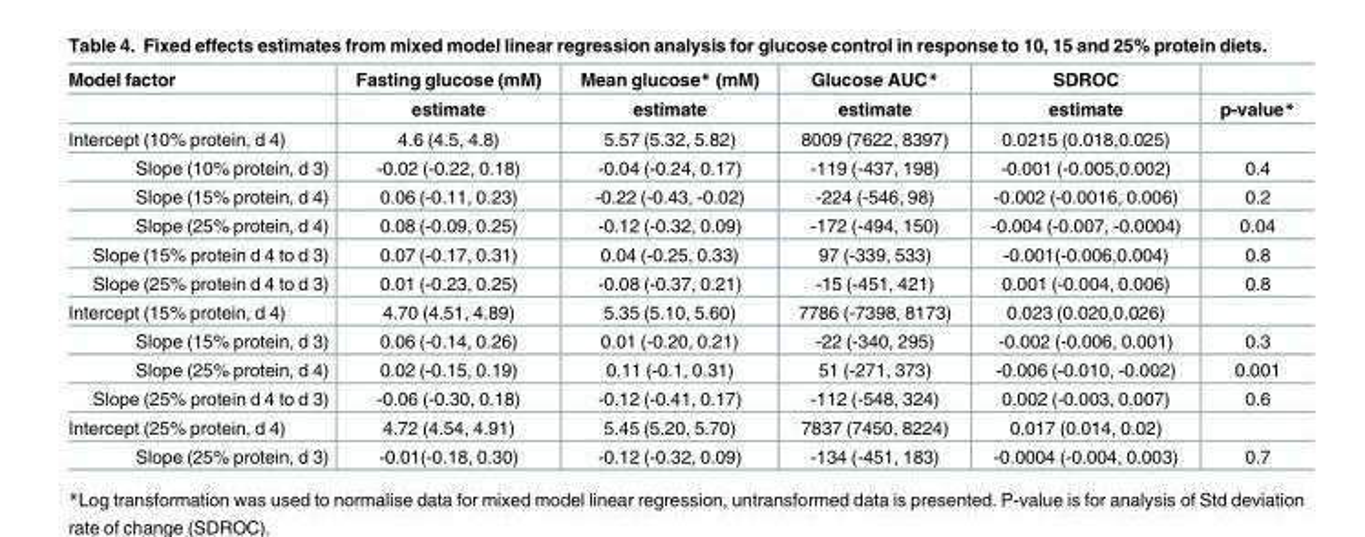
<table><thead><tr><td rowspan="2">Model factor</td><td rowspan="2">Fasting glucose (mM) estimate</td><td rowspan="2">Mean glucose* (mM) estimate</td><td rowspan="2">Glucose AUC* estimate</td><td rowspan="2">SDROC estimate</td><td rowspan="2">p-value*</td></tr><tr></tr></thead><tbody><tr><td>Intercept (10% protein, d 4)</td><td>4.6 (4.5, 4.8)</td><td>5.57 (5.32, 5.82)</td><td>8009 (7622, 8397)</td><td>0.0215 (0.018,0.025)</td><td></td></tr><tr><td>Slope (10% protein, d 3)</td><td>-0.02 (-0.22, 0.18)</td><td>-0.04 (-0.24, 0.17)</td><td>-119 (-437, 198)</td><td>-0.001 (-0.005,0.002)</td><td>0.4</td></tr><tr><td>Slope (15% protein, d 4)</td><td>0.06 (-0.11, 0.23)</td><td>-0.22 (-0.43, -0.02)</td><td>-224 (-546, 98)</td><td>-0.002 (-0.0016, 0.006)</td><td>0.2</td></tr><tr><td>Slope (25% protein, d 4)</td><td>0.08 (-0.09, 0.25)</td><td>-0.12 (-0.32, 0.09)</td><td>-172 (-494, 150)</td><td>-0.004 (-0.007, -0.0004)</td><td>0.04</td></tr><tr><td>Slope (15% protein d 4 to d 3)</td><td>0.07 (-0.17, 0.31)</td><td>0.04 (-0.25, 0.33)</td><td>97 (-339, 533)</td><td>-0.001(-0.006,0.004)</td><td>0.8</td></tr><tr><td>Slope (25% protein d 4 to d 3)</td><td>0.01 (-0.23, 0.25)</td><td>-0.08 (-0.37, 0.21)</td><td>-15 (-451, 421)</td><td>0.001 (-0.004, 0.006)</td><td>0.8</td></tr><tr><td>Intercept (15% protein, d 4)</td><td>4.70 (4.51, 4.89)</td><td>5.35 (5.10, 5.60)</td><td>7786 (-7398, 8173)</td><td>0.023 (0.020,0.026)</td><td></td></tr><tr><td>Slope (15% protein, d 3)</td><td>0.06 (-0.14, 0.26)</td><td>0.01 (-0.20, 0.21)</td><td>-22 (-340, 295)</td><td>-0.002 (-0.006, 0.001)</td><td>0.3</td></tr><tr><td>Slope (25% protein, d 4)</td><td>0.02 (-0.15, 0.19)</td><td>0.11 (-0.1, 0.31)</td><td>51 (-271, 373)</td><td>-0.006 (-0.010, -0.002)</td><td>0.001</td></tr><tr><td>Slope (25% protein d 4 to d 3)</td><td>-0.06 (-0.30, 0.18)</td><td>-0.12 (-0.41, 0.17)</td><td>-112 (-548, 324)</td><td>0.002 (-0.003, 0.007)</td><td>0.6</td></tr><tr><td>Intercept (25% protein, d 4)</td><td>4.72 (4.54, 4.91)</td><td>5.45 (5.20, 5.70)</td><td>7837 (7450, 8224)</td><td>0.017 (0.014, 0.02)</td><td></td></tr><tr><td>Slope (25% protein, d 3)</td><td>-0.01(-0.18, 0.30)</td><td>-0.12 (-0.32, 0.09)</td><td>-134 (-451, 183)</td><td>-0.0004 (-0.004, 0.003)</td><td>0.7</td></tr></tbody></table>